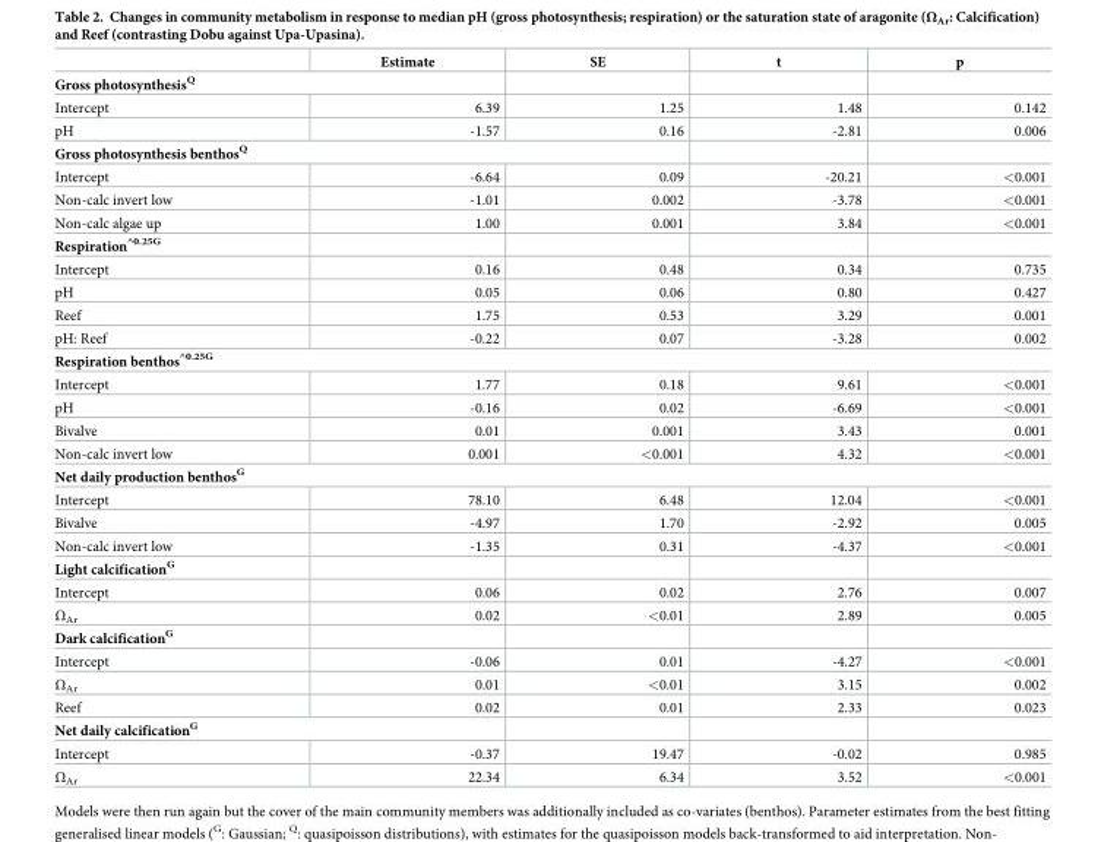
<table><thead><tr><td></td><td>Estimate</td><td>SE</td><td>t</td><td>p</td></tr></thead><tbody><tr><td colspan="5">Gross photosynthesis<sup>Q</sup></td></tr><tr><td>Intercept</td><td>6.39</td><td>1.25</td><td>1.48</td><td>0.142</td></tr><tr><td>pH</td><td>-1.57</td><td>0.16</td><td>-2.81</td><td>0.006</td></tr><tr><td colspan="5">Gross photosynthesis benthos<sup>Q</sup></td></tr><tr><td>Intercept</td><td>-6.64</td><td>0.09</td><td>-20.21</td><td>&lt;0.001</td></tr><tr><td>Non-calc invert low</td><td>-1.01</td><td>0.002</td><td>-3.78</td><td>&lt;0.001</td></tr><tr><td>Non-calc algae up</td><td>1.00</td><td>0.001</td><td>3.84</td><td>&lt;0.001</td></tr><tr><td colspan="5">Respiration<sup>^0.25G</sup></td></tr><tr><td>Intercept</td><td>0.16</td><td>0.48</td><td>0.34</td><td>0.735</td></tr><tr><td>pH</td><td>0.05</td><td>0.06</td><td>0.80</td><td>0.427</td></tr><tr><td>Reef</td><td>1.75</td><td>0.53</td><td>3.29</td><td>0.001</td></tr><tr><td>pH: Reef</td><td>-0.22</td><td>0.07</td><td>-3.28</td><td>0.002</td></tr><tr><td colspan="5">Respiration benthos<sup>^0.25G</sup></td></tr><tr><td>Intercept</td><td>1.77</td><td>0.18</td><td>9.61</td><td>&lt;0.001</td></tr><tr><td>pH</td><td>-0.16</td><td>0.02</td><td>-6.69</td><td>&lt;0.001</td></tr><tr><td>Bivalve</td><td>0.01</td><td>0.001</td><td>3.43</td><td>0.001</td></tr><tr><td>Non-calc invert low</td><td>0.001</td><td>&lt;0.001</td><td>4.32</td><td>&lt;0.001</td></tr><tr><td colspan="5">Net daily production benthos<sup>G</sup></td></tr><tr><td>Intercept</td><td>78.10</td><td>6.48</td><td>12.04</td><td>&lt;0.001</td></tr><tr><td>Bivalve</td><td>-4.97</td><td>1.70</td><td>-2.92</td><td>0.005</td></tr><tr><td>Non-calc invert low</td><td>-1.35</td><td>0.31</td><td>-4.37</td><td>&lt;0.001</td></tr><tr><td colspan="5">Light calcification<sup>G</sup></td></tr><tr><td>Intercept</td><td>0.06</td><td>0.02</td><td>2.76</td><td>0.007</td></tr><tr><td>Ω<sub>Ar</sub></td><td>0.02</td><td>&lt;0.01</td><td>2.89</td><td>0.005</td></tr><tr><td colspan="5">Dark calcification<sup>G</sup></td></tr><tr><td>Intercept</td><td>-0.06</td><td>0.01</td><td>-4.27</td><td>&lt;0.001</td></tr><tr><td>Ω<sub>Ar</sub></td><td>0.01</td><td>&lt;0.01</td><td>3.15</td><td>0.002</td></tr><tr><td>Reef</td><td>0.02</td><td>0.01</td><td>2.33</td><td>0.023</td></tr><tr><td colspan="5">Net daily calcification<sup>G</sup></td></tr><tr><td>Intercept</td><td>-0.37</td><td>19.47</td><td>-0.02</td><td>0.985</td></tr><tr><td>Ω<sub>Ar</sub></td><td>22.34</td><td>6.34</td><td>3.52</td><td>&lt;0.001</td></tr></tbody></table>